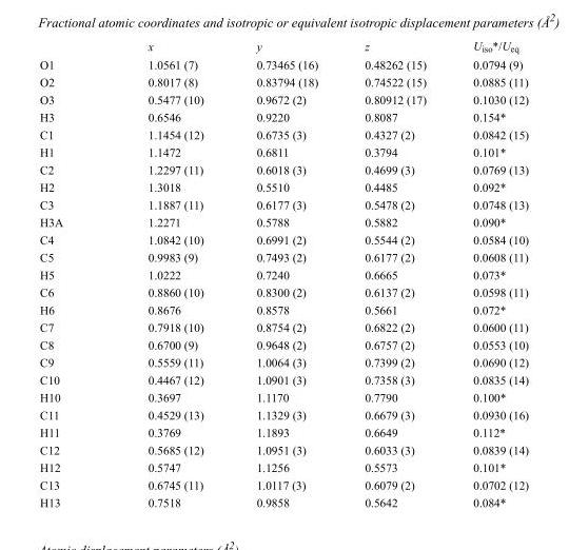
<table><thead><tr><td></td><td>x</td><td>y</td><td>z</td><td>U<sub>iso</sub>*/U<sub>eq</sub></td></tr></thead><tbody><tr><td>O1</td><td>1.0561 (7)</td><td>0.73465 (16)</td><td>0.48262 (15)</td><td>0.0794 (9)</td></tr><tr><td>O2</td><td>0.8017 (8)</td><td>0.83794 (18)</td><td>0.74522 (15)</td><td>0.0885 (11)</td></tr><tr><td>O3</td><td>0.5477 (10)</td><td>0.9672 (2)</td><td>0.80912 (17)</td><td>0.1030 (12)</td></tr><tr><td>H3</td><td>0.6546</td><td>0.9220</td><td>0.8087</td><td>0.154*</td></tr><tr><td>C1</td><td>1.1454 (12)</td><td>0.6735 (3)</td><td>0.4327 (2)</td><td>0.0842 (15)</td></tr><tr><td>H1</td><td>1.1472</td><td>0.6811</td><td>0.3794</td><td>0.101*</td></tr><tr><td>C2</td><td>1.2297 (11)</td><td>0.6018 (3)</td><td>0.4699 (3)</td><td>0.0769 (13)</td></tr><tr><td>H2</td><td>1.3018</td><td>0.5510</td><td>0.4485</td><td>0.092*</td></tr><tr><td>C3</td><td>1.1887 (11)</td><td>0.6177 (3)</td><td>0.5478 (2)</td><td>0.0748 (13)</td></tr><tr><td>H3A</td><td>1.2271</td><td>0.5788</td><td>0.5882</td><td>0.090*</td></tr><tr><td>C4</td><td>1.0842 (10)</td><td>0.6991 (2)</td><td>0.5544 (2)</td><td>0.0584 (10)</td></tr><tr><td>C5</td><td>0.9983 (9)</td><td>0.7493 (2)</td><td>0.6177 (2)</td><td>0.0608 (11)</td></tr><tr><td>H5</td><td>1.0222</td><td>0.7240</td><td>0.6665</td><td>0.073*</td></tr><tr><td>C6</td><td>0.8860 (10)</td><td>0.8300 (2)</td><td>0.6137 (2)</td><td>0.0598 (11)</td></tr><tr><td>H6</td><td>0.8676</td><td>0.8578</td><td>0.5661</td><td>0.072*</td></tr><tr><td>C7</td><td>0.7918 (10)</td><td>0.8754 (2)</td><td>0.6822 (2)</td><td>0.0600 (11)</td></tr><tr><td>C8</td><td>0.6700 (9)</td><td>0.9648 (2)</td><td>0.6757 (2)</td><td>0.0553 (10)</td></tr><tr><td>C9</td><td>0.5559 (11)</td><td>1.0064 (3)</td><td>0.7399 (2)</td><td>0.0690 (12)</td></tr><tr><td>C10</td><td>0.4467 (12)</td><td>1.0901 (3)</td><td>0.7358 (3)</td><td>0.0835 (14)</td></tr><tr><td>H10</td><td>0.3697</td><td>1.1170</td><td>0.7790</td><td>0.100*</td></tr><tr><td>C11</td><td>0.4529 (13)</td><td>1.1329 (3)</td><td>0.6679 (3)</td><td>0.0930 (16)</td></tr><tr><td>H11</td><td>0.3769</td><td>1.1893</td><td>0.6649</td><td>0.112*</td></tr><tr><td>C12</td><td>0.5685 (12)</td><td>1.0951 (3)</td><td>0.6033 (3)</td><td>0.0839 (14)</td></tr><tr><td>H12</td><td>0.5747</td><td>1.1256</td><td>0.5573</td><td>0.101*</td></tr><tr><td>C13</td><td>0.6745 (11)</td><td>1.0117 (3)</td><td>0.6079 (2)</td><td>0.0702 (12)</td></tr><tr><td>H13</td><td>0.7518</td><td>0.9858</td><td>0.5642</td><td>0.084*</td></tr></tbody></table>